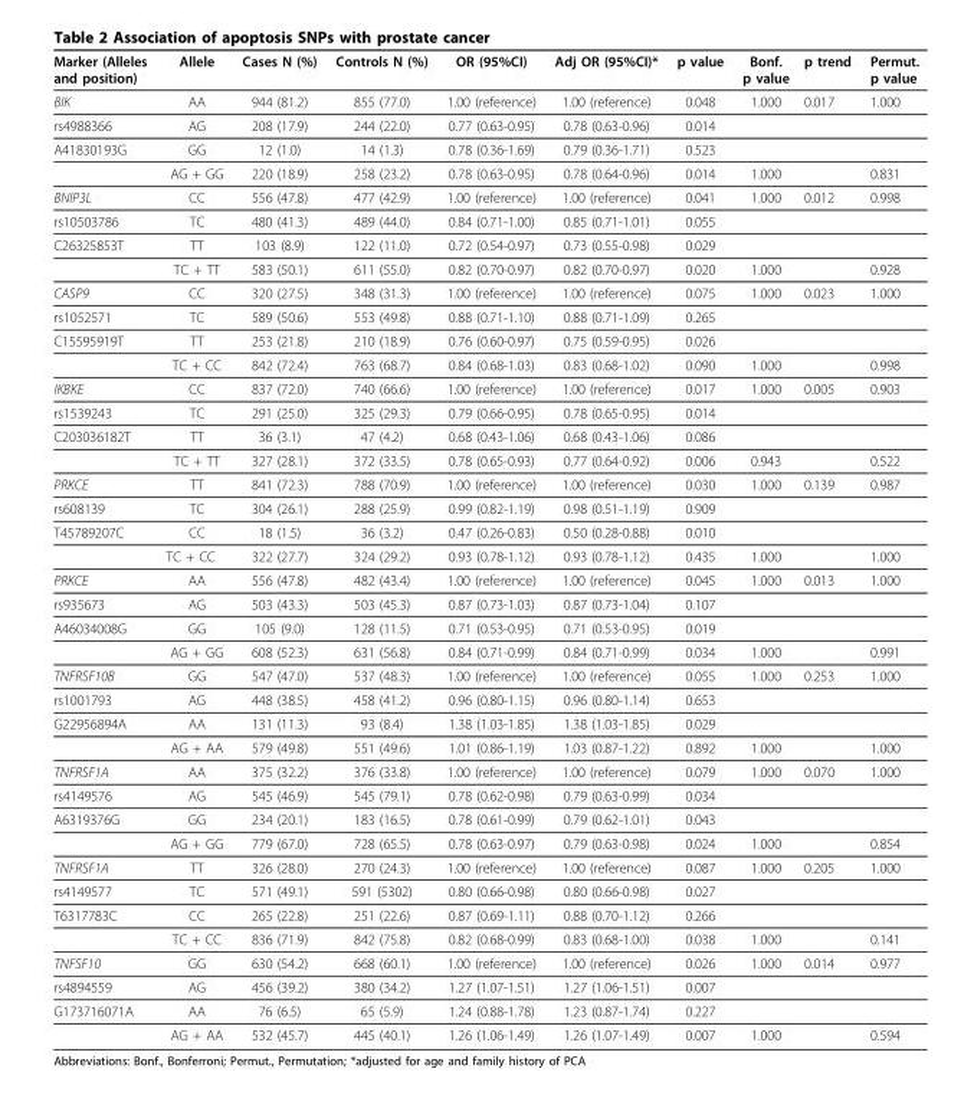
<table><thead><tr><td>Marker (Alleles and position)</td><td>Allele</td><td>Cases N (%)</td><td>Controls N (%)</td><td>OR (95%CI)</td><td>Adj OR (95%CI)*</td><td>p value</td><td>Bonf. p value</td><td>p trend</td><td>Permut. p value</td></tr></thead><tbody><tr><td>BIK</td><td>AA</td><td>944 (81.2)</td><td>855 (77.0)</td><td>1.00 (reference)</td><td>1.00 (reference)</td><td>0.048</td><td>1.000</td><td>0.017</td><td>1.000</td></tr><tr><td>rs4988366</td><td>AG</td><td>208 (17.9)</td><td>244 (22.0)</td><td>0.77 (0.63-0.95)</td><td>0.78 (0.63-0.96)</td><td>0.014</td><td></td><td></td><td></td></tr><tr><td rowspan="2">A41830193G</td><td>GG</td><td>12 (1.0)</td><td>14 (1.3)</td><td>0.78 (0.36-1.69)</td><td>0.79 (0.36-1.71)</td><td>0.523</td><td></td><td></td><td></td></tr><tr><td>AG + GG</td><td>220 (18.9)</td><td>258 (23.2)</td><td>0.78 (0.63-0.95)</td><td>0.78 (0.64-0.96)</td><td>0.014</td><td>1.000</td><td></td><td>0.831</td></tr><tr><td>BNIP3L</td><td>CC</td><td>556 (47.8)</td><td>477 (42.9)</td><td>1.00 (reference)</td><td>1.00 (reference)</td><td>0.041</td><td>1.000</td><td>0.012</td><td>0.998</td></tr><tr><td>rs10503786</td><td>TC</td><td>480 (41.3)</td><td>489 (44.0)</td><td>0.84 (0.71-1.00)</td><td>0.85 (0.71-1.01)</td><td>0.055</td><td></td><td></td><td></td></tr><tr><td rowspan="2">C26325853T</td><td>TT</td><td>103 (8.9)</td><td>122 (11.0)</td><td>0.72 (0.54-0.97)</td><td>0.73 (0.55-0.98)</td><td>0.029</td><td></td><td></td><td></td></tr><tr><td>TC + TT</td><td>583 (50.1)</td><td>611 (55.0)</td><td>0.82 (0.70-0.97)</td><td>0.82 (0.70-0.97)</td><td>0.020</td><td>1.000</td><td></td><td>0.928</td></tr><tr><td>CASP9</td><td>CC</td><td>320 (27.5)</td><td>348 (31.3)</td><td>1.00 (reference)</td><td>1.00 (reference)</td><td>0.075</td><td>1.000</td><td>0.023</td><td>1.000</td></tr><tr><td>rs1052571</td><td>TC</td><td>589 (50.6)</td><td>553 (49.8)</td><td>0.88 (0.71-1.10)</td><td>0.88 (0.71-1.09)</td><td>0.265</td><td></td><td></td><td></td></tr><tr><td rowspan="2">C15595919T</td><td>TT</td><td>253 (21.8)</td><td>210 (18.9)</td><td>0.76 (0.60-0.97)</td><td>0.75 (0.59-0.95)</td><td>0.026</td><td></td><td></td><td></td></tr><tr><td>TC + CC</td><td>842 (72.4)</td><td>763 (68.7)</td><td>0.84 (0.68-1.03)</td><td>0.83 (0.68-1.02)</td><td>0.090</td><td>1.000</td><td></td><td>0.998</td></tr><tr><td>IKBKE</td><td>CC</td><td>837 (72.0)</td><td>740 (66.6)</td><td>1.00 (reference)</td><td>1.00 (reference)</td><td>0.017</td><td>1.000</td><td>0.005</td><td>0.903</td></tr><tr><td>rs1539243</td><td>TC</td><td>291 (25.0)</td><td>325 (29.3)</td><td>0.79 (0.66-0.95)</td><td>0.78 (0.65-0.95)</td><td>0.014</td><td></td><td></td><td></td></tr><tr><td rowspan="2">C203036182T</td><td>TT</td><td>36 (3.1)</td><td>47 (4.2)</td><td>0.68 (0.43-1.06)</td><td>0.68 (0.43-1.06)</td><td>0.086</td><td></td><td></td><td></td></tr><tr><td>TC + TT</td><td>327 (28.1)</td><td>372 (33.5)</td><td>0.78 (0.65-0.93)</td><td>0.77 (0.64-0.92)</td><td>0.006</td><td>0.943</td><td></td><td>0.522</td></tr><tr><td>PRKCE</td><td>TT</td><td>841 (72.3)</td><td>788 (70.9)</td><td>1.00 (reference)</td><td>1.00 (reference)</td><td>0.030</td><td>1.000</td><td>0.139</td><td>0.987</td></tr><tr><td>rs608139</td><td>TC</td><td>304 (26.1)</td><td>288 (25.9)</td><td>0.99 (0.82-1.19)</td><td>0.98 (0.51-1.19)</td><td>0.909</td><td></td><td></td><td></td></tr><tr><td rowspan="2">T45789207C</td><td>CC</td><td>18 (1.5)</td><td>36 (3.2)</td><td>0.47 (0.26-0.83)</td><td>0.50 (0.28-0.88)</td><td>0.010</td><td></td><td></td><td></td></tr><tr><td>TC + CC</td><td>322 (27.7)</td><td>324 (29.2)</td><td>0.93 (0.78-1.12)</td><td>0.93 (0.78-1.12)</td><td>0.435</td><td>1.000</td><td></td><td>1.000</td></tr><tr><td>PRKCE</td><td>AA</td><td>556 (47.8)</td><td>482 (43.4)</td><td>1.00 (reference)</td><td>1.00 (reference)</td><td>0.045</td><td>1.000</td><td>0.013</td><td>1.000</td></tr><tr><td>rs935673</td><td>AG</td><td>503 (43.3)</td><td>503 (45.3)</td><td>0.87 (0.73-1.03)</td><td>0.87 (0.73-1.04)</td><td>0.107</td><td></td><td></td><td></td></tr><tr><td rowspan="2">A46034008G</td><td>GG</td><td>105 (9.0)</td><td>128 (11.5)</td><td>0.71 (0.53-0.95)</td><td>0.71 (0.53-0.95)</td><td>0.019</td><td></td><td></td><td></td></tr><tr><td>AG + GG</td><td>608 (52.3)</td><td>631 (56.8)</td><td>0.84 (0.71-0.99)</td><td>0.84 (0.71-0.99)</td><td>0.034</td><td>1.000</td><td></td><td>0.991</td></tr><tr><td>TNFRSF10B</td><td>GG</td><td>547 (47.0)</td><td>537 (48.3)</td><td>1.00 (reference)</td><td>1.00 (reference)</td><td>0.055</td><td>1.000</td><td>0.253</td><td>1.000</td></tr><tr><td>rs1001793</td><td>AG</td><td>448 (38.5)</td><td>458 (41.2)</td><td>0.96 (0.80-1.15)</td><td>0.96 (0.80-1.14)</td><td>0.653</td><td></td><td></td><td></td></tr><tr><td rowspan="2">G22956894A</td><td>AA</td><td>131 (11.3)</td><td>93 (8.4)</td><td>1.38 (1.03-1.85)</td><td>1.38 (1.03-1.85)</td><td>0.029</td><td></td><td></td><td></td></tr><tr><td>AG + AA</td><td>579 (49.8)</td><td>551 (49.6)</td><td>1.01 (0.86-1.19)</td><td>1.03 (0.87-1.22)</td><td>0.892</td><td>1.000</td><td></td><td>1.000</td></tr><tr><td>TNFRSF1A</td><td>AA</td><td>375 (32.2)</td><td>376 (33.8)</td><td>1.00 (reference)</td><td>1.00 (reference)</td><td>0.079</td><td>1.000</td><td>0.070</td><td>1.000</td></tr><tr><td>rs4149576</td><td>AG</td><td>545 (46.9)</td><td>545 (79.1)</td><td>0.78 (0.62-0.98)</td><td>0.79 (0.63-0.99)</td><td>0.034</td><td></td><td></td><td></td></tr><tr><td rowspan="2">A6319376G</td><td>GG</td><td>234 (20.1)</td><td>183 (16.5)</td><td>0.78 (0.61-0.99)</td><td>0.79 (0.62-1.01)</td><td>0.043</td><td></td><td></td><td></td></tr><tr><td>AG + GG</td><td>779 (67.0)</td><td>728 (65.5)</td><td>0.78 (0.63-0.97)</td><td>0.79 (0.63-0.98)</td><td>0.024</td><td>1.000</td><td></td><td>0.854</td></tr><tr><td>TNFRSF1A</td><td>TT</td><td>326 (28.0)</td><td>270 (24.3)</td><td>1.00 (reference)</td><td>1.00 (reference)</td><td>0.087</td><td>1.000</td><td>0.205</td><td>1.000</td></tr><tr><td>rs4149577</td><td>TC</td><td>571 (49.1)</td><td>591 (5302)</td><td>0.80 (0.66-0.98)</td><td>0.80 (0.66-0.98)</td><td>0.027</td><td></td><td></td><td></td></tr><tr><td rowspan="2">T6317783C</td><td>CC</td><td>265 (22.8)</td><td>251 (22.6)</td><td>0.87 (0.69-1.11)</td><td>0.88 (0.70-1.12)</td><td>0.266</td><td></td><td></td><td></td></tr><tr><td>TC + CC</td><td>836 (71.9)</td><td>842 (75.8)</td><td>0.82 (0.68-0.99)</td><td>0.83 (0.68-1.00)</td><td>0.038</td><td>1.000</td><td></td><td>0.141</td></tr><tr><td>TNFSF10</td><td>GG</td><td>630 (54.2)</td><td>668 (60.1)</td><td>1.00 (reference)</td><td>1.00 (reference)</td><td>0.026</td><td>1.000</td><td>0.014</td><td>0.977</td></tr><tr><td>rs4894559</td><td>AG</td><td>456 (39.2)</td><td>380 (34.2)</td><td>1.27 (1.07-1.51)</td><td>1.27 (1.06-1.51)</td><td>0.007</td><td></td><td></td><td></td></tr><tr><td rowspan="2">G173716071A</td><td>AA</td><td>76 (6.5)</td><td>65 (5.9)</td><td>1.24 (0.88-1.78)</td><td>1.23 (0.87-1.74)</td><td>0.227</td><td></td><td></td><td></td></tr><tr><td>AG + AA</td><td>532 (45.7)</td><td>445 (40.1)</td><td>1.26 (1.06-1.49)</td><td>1.26 (1.07-1.49)</td><td>0.007</td><td>1.000</td><td></td><td>0.594</td></tr></tbody></table>